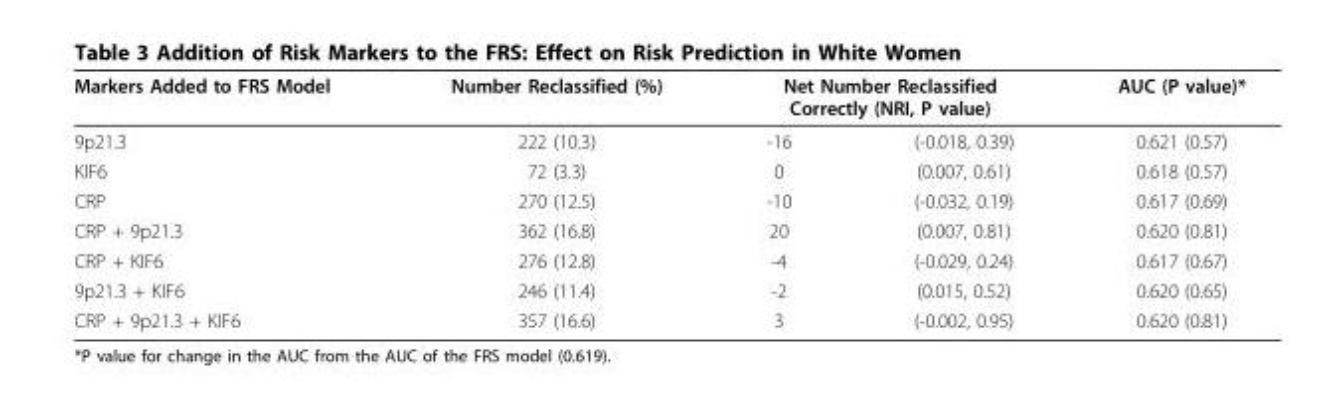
<table><thead><tr><td rowspan="2">Markers Added to FRS Model 9p21.3</td><td rowspan="2">Number Reclassified (%) 222 (10.3)</td><td colspan="2">Net Number Reclassified Correctly (NRI, P value)</td><td rowspan="2">AUC (P value)* 0.621 (0.57)</td></tr><tr><td>-16</td><td>(-0.018, 0.39)</td></tr></thead><tbody><tr><td>KIF6</td><td>72 (3.3)</td><td>0</td><td>(0.007, 0.61)</td><td>0.618 (0.57)</td></tr><tr><td>CRP</td><td>270 (12.5)</td><td>-10</td><td>(-0.032, 0.19)</td><td>0.617 (0.69)</td></tr><tr><td>CRP + 9p21.3</td><td>362 (16.8)</td><td>20</td><td>(0.007, 0.81)</td><td>0.620 (0.81)</td></tr><tr><td>CRP + KIF6</td><td>276 (12.8)</td><td>-4</td><td>(-0.029, 0.24)</td><td>0.617 (0.67)</td></tr><tr><td>9p21.3 + KIF6</td><td>246 (11.4)</td><td>-2</td><td>(0.015, 0.52)</td><td>0.620 (0.65)</td></tr><tr><td>CRP + 9p21.3 + KIF6</td><td>357 (16.6)</td><td>3</td><td>(-0.002, 0.95)</td><td>0.620 (0.81)</td></tr></tbody></table>